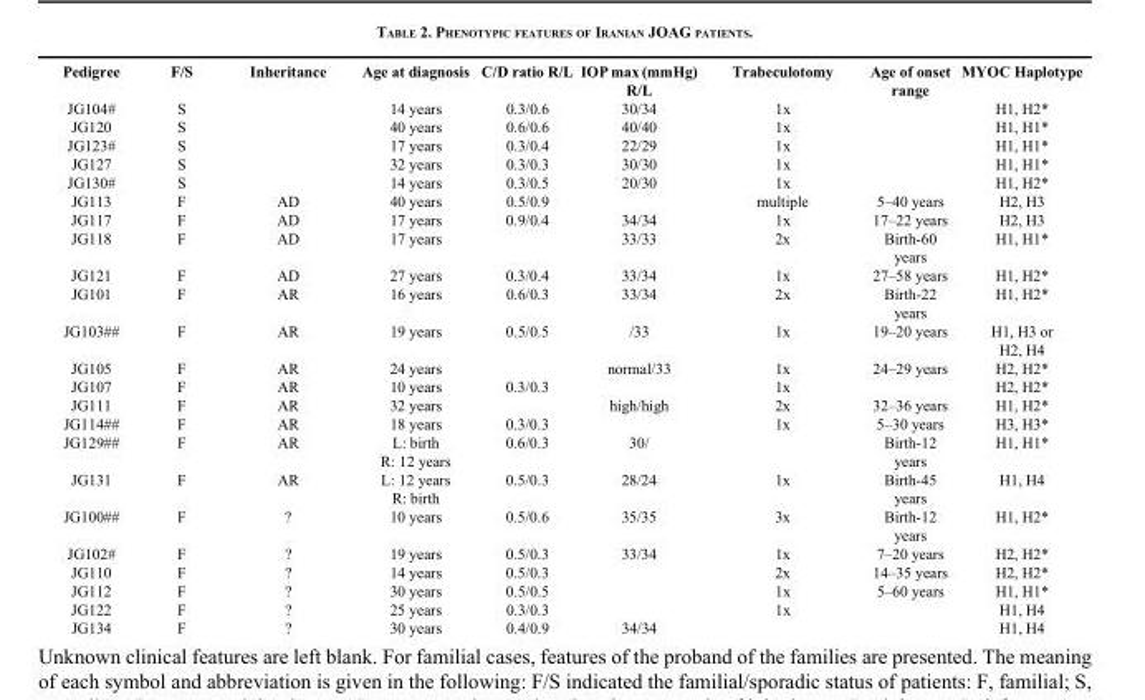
<table><tbody><tr><td>Pedigree</td><td>F/S</td><td>Inheritance</td><td>Age at diagnosis</td><td>C/D ratio R/L</td><td>IOP max (mmHg) R/L</td><td>Trabeculotomy</td><td>Age of onset range</td><td>MYOC Haplotype</td></tr><tr><td>JG104#</td><td>S</td><td></td><td>14 years</td><td>0.3/0.6</td><td>30/34</td><td>1x</td><td></td><td>H1, H2*</td></tr><tr><td>JG120</td><td>S</td><td></td><td>40 years</td><td>0.6/0.6</td><td>40/40</td><td>1x</td><td></td><td>H1, H1*</td></tr><tr><td>JG123#</td><td>S</td><td></td><td>17 years</td><td>0.3/0.4</td><td>22/29</td><td>1x</td><td></td><td>H1, H1*</td></tr><tr><td>JG127</td><td>S</td><td></td><td>32 years</td><td>0.3/0.3</td><td>30/30</td><td>1x</td><td></td><td>H1, H1*</td></tr><tr><td>JG130#</td><td>S</td><td></td><td>14 years</td><td>0.3/0.5</td><td>20/30</td><td>1x</td><td></td><td>H1, H2*</td></tr><tr><td>JG113</td><td>F</td><td>AD</td><td>40 years</td><td>0.5/0.9</td><td></td><td>multiple</td><td>5–40 years</td><td>H2, H3</td></tr><tr><td>JG117</td><td>F</td><td>AD</td><td>17 years</td><td>0.9/0.4</td><td>34/34</td><td>1x</td><td>17–22 years</td><td>H2, H3</td></tr><tr><td>JG118</td><td>F</td><td>AD</td><td>17 years</td><td></td><td>33/33</td><td>2x</td><td>Birth-60 years</td><td>H1, H1*</td></tr><tr><td>JG121</td><td>F</td><td>AD</td><td>27 years</td><td>0.3/0.4</td><td>33/34</td><td>1x</td><td>27–58 years</td><td>H1, H2*</td></tr><tr><td>JG101</td><td>F</td><td>AR</td><td>16 years</td><td>0.6/0.3</td><td>33/34</td><td>2x</td><td>Birth-22 years</td><td>H1, H2*</td></tr><tr><td>JG103##</td><td>F</td><td>AR</td><td>19 years</td><td>0.5/0.5</td><td>/33</td><td>1x</td><td>19–20 years</td><td>H1, H3 or H2, H4</td></tr><tr><td>JG105</td><td>F</td><td>AR</td><td>24 years</td><td></td><td>normal/33</td><td>1x</td><td>24–29 years</td><td>H2, H2*</td></tr><tr><td>JG107</td><td>F</td><td>AR</td><td>10 years</td><td>0.3/0.3</td><td></td><td>1x</td><td></td><td>H2, H2*</td></tr><tr><td>JG111</td><td>F</td><td>AR</td><td>32 years</td><td></td><td>high/high</td><td>2x</td><td>32–36 years</td><td>H1, H2*</td></tr><tr><td>JG114##</td><td>F</td><td>AR</td><td>18 years</td><td>0.3/0.3</td><td></td><td>1x</td><td>5–30 years</td><td>H3, H3*</td></tr><tr><td>JG129##</td><td>F</td><td>AR</td><td>L: birth R: 12 years</td><td>0.6/0.3</td><td>30/</td><td></td><td>Birth-12 years</td><td>H1, H1*</td></tr><tr><td>JG131</td><td>F</td><td>AR</td><td>L: 12 years R: birth</td><td>0.5/0.3</td><td>28/24</td><td>1x</td><td>Birth-45 years</td><td>H1, H4</td></tr><tr><td>JG100##</td><td>F</td><td>?</td><td>10 years</td><td>0.5/0.6</td><td>35/35</td><td>3x</td><td>Birth-12 years</td><td>H1, H2*</td></tr><tr><td>JG102#</td><td>F</td><td>?</td><td>19 years</td><td>0.5/0.3</td><td>33/34</td><td>1x</td><td>7–20 years</td><td>H2, H2*</td></tr><tr><td>JG110</td><td>F</td><td>?</td><td>14 years</td><td>0.5/0.3</td><td></td><td>2x</td><td>14–35 years</td><td>H2, H2*</td></tr><tr><td>JG112</td><td>F</td><td>?</td><td>30 years</td><td>0.5/0.5</td><td></td><td>1x</td><td>5–60 years</td><td>H1, H1*</td></tr><tr><td>JG122</td><td>F</td><td>?</td><td>25 years</td><td>0.3/0.3</td><td></td><td>1x</td><td></td><td>H1, H4</td></tr><tr><td>JG134</td><td>F</td><td>?</td><td>30 years</td><td>0.4/0.9</td><td>34/34</td><td></td><td></td><td>H1, H4</td></tr></tbody></table>